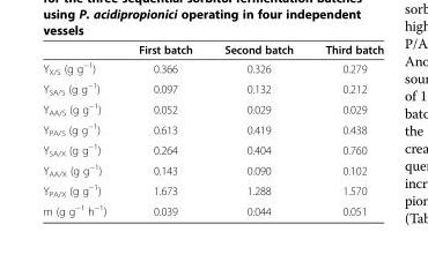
<table><thead><tr><td></td><td>First batch</td><td>Second batch</td><td>Third batch</td></tr></thead><tbody><tr><td>Y<sub>X/S</sub> (g g<sup>−1</sup>)</td><td>0.366</td><td>0.326</td><td>0.279</td></tr><tr><td>Y<sub>SA/S</sub> (g g<sup>−1</sup>)</td><td>0.097</td><td>0.132</td><td>0.212</td></tr><tr><td>Y<sub>AA/S</sub> (g g<sup>−1</sup>)</td><td>0.052</td><td>0.029</td><td>0.029</td></tr><tr><td>Y<sub>PA/S</sub> (g g<sup>−1</sup>)</td><td>0.613</td><td>0.419</td><td>0.438</td></tr><tr><td>Y<sub>SA/X</sub> (g g<sup>−1</sup>)</td><td>0.264</td><td>0.404</td><td>0.760</td></tr><tr><td>Y<sub>AA/X</sub> (g g<sup>−1</sup>)</td><td>0.143</td><td>0.090</td><td>0.102</td></tr><tr><td>Y<sub>PA/X</sub> (g g<sup>−1</sup>)</td><td>1.673</td><td>1.288</td><td>1.570</td></tr><tr><td>m (g g<sup>−1</sup> h<sup>−1</sup>)</td><td>0.039</td><td>0.044</td><td>0.051</td></tr></tbody></table>